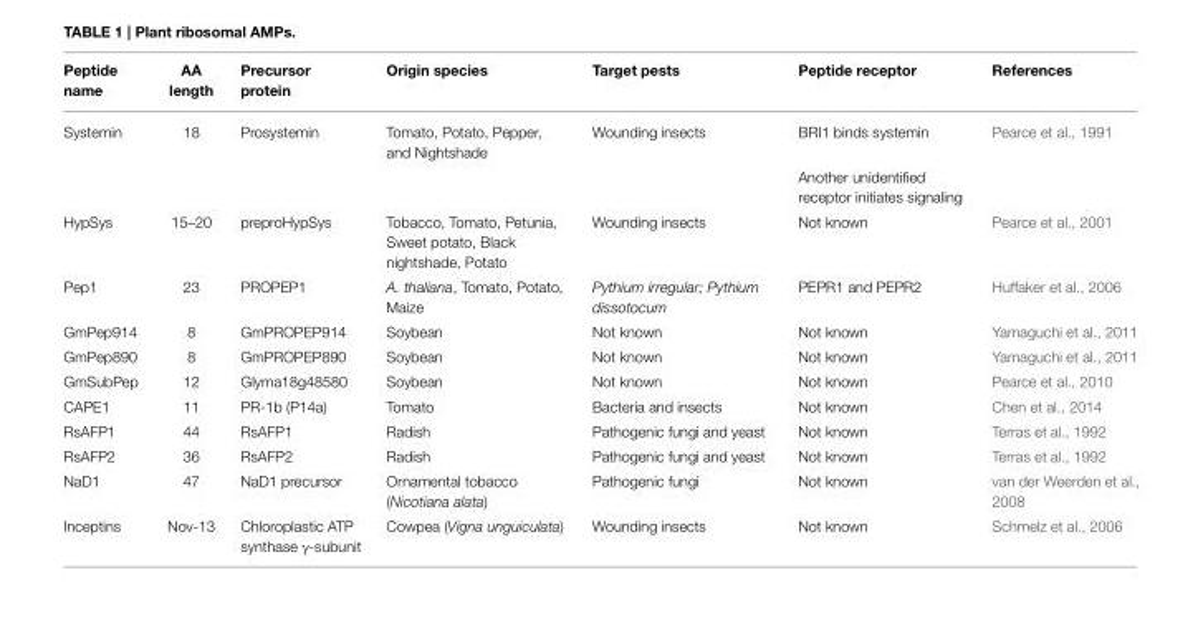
<table><thead><tr><td>Peptide name</td><td>AA length</td><td>Precursor protein</td><td>Origin species</td><td>Target pests</td><td>Peptide receptor</td><td>References</td></tr></thead><tbody><tr><td rowspan="2">Systemin</td><td>18</td><td>Prosystemin</td><td>Tomato, Potato, Pepper, and Nightshade</td><td>Wounding insects</td><td>BRI1 binds systemin</td><td>Pearce et al., 1991</td></tr><tr><td></td><td></td><td></td><td></td><td>Another unidentified receptor initiates signaling</td><td></td></tr><tr><td>HypSys</td><td>15–20</td><td>preproHypSys</td><td>Tobacco, Tomato, Petunia, Sweet potato, Black nightshade, Potato</td><td>Wounding insects</td><td>Not known</td><td>Pearce et al., 2001</td></tr><tr><td>Pep1</td><td>23</td><td>PROPEP1</td><td>A. thaliana, Tomato, Potato, Maize</td><td>Pythium irregular; Pythium dissotocum</td><td>PEPR1 and PEPR2</td><td>Huffaker et al., 2006</td></tr><tr><td>GmPep914</td><td>8</td><td>GmPROPEP914</td><td>Soybean</td><td>Not known</td><td>Not known</td><td>Yamaguchi et al., 2011</td></tr><tr><td>GmPep890</td><td>8</td><td>GmPROPEP890</td><td>Soybean</td><td>Not known</td><td>Not known</td><td>Yamaguchi et al., 2011</td></tr><tr><td>GmSubPep</td><td>12</td><td>Glyma18g48580</td><td>Soybean</td><td>Not known</td><td>Not known</td><td>Pearce et al., 2010</td></tr><tr><td>CAPE1</td><td>11</td><td>PR-1b (P14a)</td><td>Tomato</td><td>Bacteria and insects</td><td>Not known</td><td>Chen et al., 2014</td></tr><tr><td>RsAFP1</td><td>44</td><td>RsAFP1</td><td>Radish</td><td>Pathogenic fungi and yeast</td><td>Not known</td><td>Terras et al., 1992</td></tr><tr><td>RsAFP2</td><td>36</td><td>RsAFP2</td><td>Radish</td><td>Pathogenic fungi and yeast</td><td>Not known</td><td>Terras et al., 1992</td></tr><tr><td>NaD1</td><td>47</td><td>NaD1 precursor</td><td>Ornamental tobacco (Nicotiana alata)</td><td>Pathogenic fungi</td><td>Not known</td><td>van der Weerden et al., 2008</td></tr><tr><td>Inceptins</td><td>Nov-13</td><td>Chloroplastic ATP synthase γ-subunit</td><td>Cowpea (Vigna unguiculata)</td><td>Wounding insects</td><td>Not known</td><td>Schmelz et al., 2006</td></tr></tbody></table>